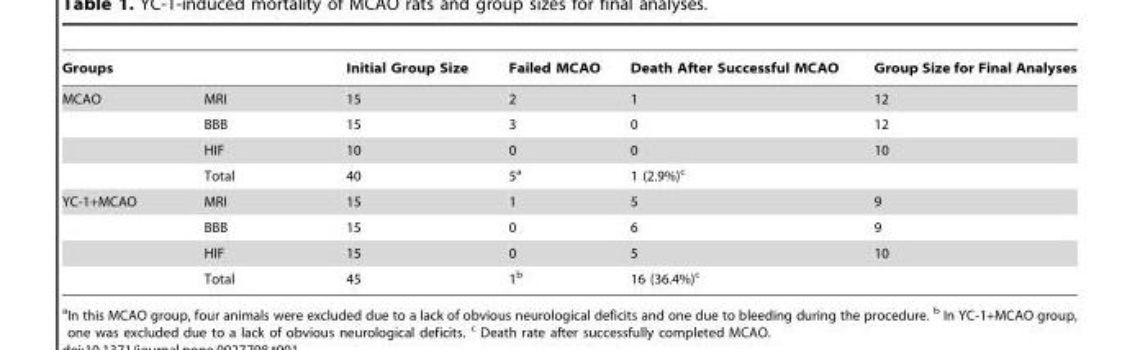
<table><thead><tr><td>Groups</td><td></td><td>Initial Group Size</td><td>Failed MCAO</td><td>Death After Successful MCAO</td><td>Group Size for Final Analyses</td></tr></thead><tbody><tr><td rowspan="4">MCAO</td><td>MRI</td><td>15</td><td>2</td><td>1</td><td>12</td></tr><tr><td>BBB</td><td>15</td><td>3</td><td>0</td><td>12</td></tr><tr><td>HIF</td><td>10</td><td>0</td><td>0</td><td>10</td></tr><tr><td>Total</td><td>40</td><td>5<sup>a</sup></td><td>1 (2.9%)<sup>c</sup></td><td></td></tr><tr><td rowspan="4">YC-1+MCAO</td><td>MRI</td><td>15</td><td>1</td><td>5</td><td>9</td></tr><tr><td>BBB</td><td>15</td><td>0</td><td>6</td><td>9</td></tr><tr><td>HIF</td><td>15</td><td>0</td><td>5</td><td>10</td></tr><tr><td>Total</td><td>45</td><td>1<sup>b</sup></td><td>16 (36.4%)<sup>c</sup></td><td></td></tr></tbody></table>